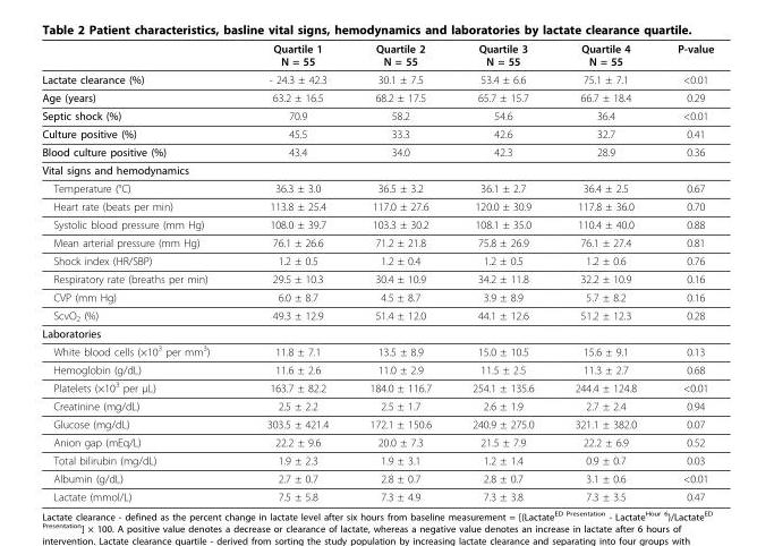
<table><thead><tr><td></td><td>Quartile 1 N = 55</td><td>Quartile 2 N = 55</td><td>Quartile 3 N = 55</td><td>Quartile 4 N = 55</td><td>P-value</td></tr></thead><tbody><tr><td>Lactate clearance (%)</td><td>- 24.3 ± 42.3</td><td>30.1 ± 7.5</td><td>53.4 ± 6.6</td><td>75.1 ± 7.1</td><td>&lt;0.01</td></tr><tr><td>Age (years)</td><td>63.2 ± 16.5</td><td>68.2 ± 17.5</td><td>65.7 ± 15.7</td><td>66.7 ± 18.4</td><td>0.29</td></tr><tr><td>Septic shock (%)</td><td>70.9</td><td>58.2</td><td>54.6</td><td>36.4</td><td>&lt;0.01</td></tr><tr><td>Culture positive (%)</td><td>45.5</td><td>33.3</td><td>42.6</td><td>32.7</td><td>0.41</td></tr><tr><td>Blood culture positive (%)</td><td>43.4</td><td>34.0</td><td>42.3</td><td>28.9</td><td>0.36</td></tr><tr><td colspan="6">Vital signs and hemodynamics</td></tr><tr><td>Temperature (°C)</td><td>36.3 ± 3.0</td><td>36.5 ± 3.2</td><td>36.1 ± 2.7</td><td>36.4 ± 2.5</td><td>0.67</td></tr><tr><td>Heart rate (beats per min)</td><td>113.8 ± 25.4</td><td>117.0 ± 27.6</td><td>120.0 ± 30.9</td><td>117.8 ± 36.0</td><td>0.70</td></tr><tr><td>Systolic blood pressure (mm Hg)</td><td>108.0 ± 39.7</td><td>103.3 ± 30.2</td><td>108.1 ± 35.0</td><td>110.4 ± 40.0</td><td>0.88</td></tr><tr><td>Mean arterial pressure (mm Hg)</td><td>76.1 ± 26.6</td><td>71.2 ± 21.8</td><td>75.8 ± 26.9</td><td>76.1 ± 27.4</td><td>0.81</td></tr><tr><td>Shock index (HR/SBP)</td><td>1.2 ± 0.5</td><td>1.2 ± 0.4</td><td>1.2 ± 0.5</td><td>1.2 ± 0.6</td><td>0.76</td></tr><tr><td>Respiratory rate (breaths per min)</td><td>29.5 ± 10.3</td><td>30.4 ± 10.9</td><td>34.2 ± 11.8</td><td>32.2 ± 10.9</td><td>0.16</td></tr><tr><td>CVP (mm Hg)</td><td>6.0 ± 8.7</td><td>4.5 ± 8.7</td><td>3.9 ± 8.9</td><td>5.7 ± 8.2</td><td>0.16</td></tr><tr><td>ScvO<sub>2</sub> (%)</td><td>49.3 ± 12.9</td><td>51.4 ± 12.0</td><td>44.1 ± 12.6</td><td>51.2 ± 12.3</td><td>0.28</td></tr><tr><td colspan="6">Laboratories</td></tr><tr><td>White blood cells (×10<sup>3</sup> per mm<sup>3</sup>)</td><td>11.8 ± 7.1</td><td>13.5 ± 8.9</td><td>15.0 ± 10.5</td><td>15.6 ± 9.1</td><td>0.13</td></tr><tr><td>Hemoglobin (g/dL)</td><td>11.6 ± 2.6</td><td>11.0 ± 2.9</td><td>11.5 ± 2.5</td><td>11.3 ± 2.7</td><td>0.68</td></tr><tr><td>Platelets (×10<sup>3</sup> per μL)</td><td>163.7 ± 82.2</td><td>184.0 ± 116.7</td><td>254.1 ± 135.6</td><td>244.4 ± 124.8</td><td>&lt;0.01</td></tr><tr><td>Creatinine (mg/dL)</td><td>2.5 ± 2.2</td><td>2.5 ± 1.7</td><td>2.6 ± 1.9</td><td>2.7 ± 2.4</td><td>0.94</td></tr><tr><td>Glucose (mg/dL)</td><td>303.5 ± 421.4</td><td>172.1 ± 150.6</td><td>240.9 ± 275.0</td><td>321.1 ± 382.0</td><td>0.07</td></tr><tr><td>Anion gap (mEq/L)</td><td>22.2 ± 9.6</td><td>20.0 ± 7.3</td><td>21.5 ± 7.9</td><td>22.2 ± 6.9</td><td>0.52</td></tr><tr><td>Total bilirubin (mg/dL)</td><td>1.9 ± 2.3</td><td>1.9 ± 3.1</td><td>1.2 ± 1.4</td><td>0.9 ± 0.7</td><td>0.03</td></tr><tr><td>Albumin (g/dL)</td><td>2.7 ± 0.7</td><td>2.8 ± 0.7</td><td>2.8 ± 0.7</td><td>3.1 ± 0.6</td><td>&lt;0.01</td></tr><tr><td>Lactate (mmol/L)</td><td>7.5 ± 5.8</td><td>7.3 ± 4.9</td><td>7.3 ± 3.8</td><td>7.3 ± 3.5</td><td>0.47</td></tr></tbody></table>